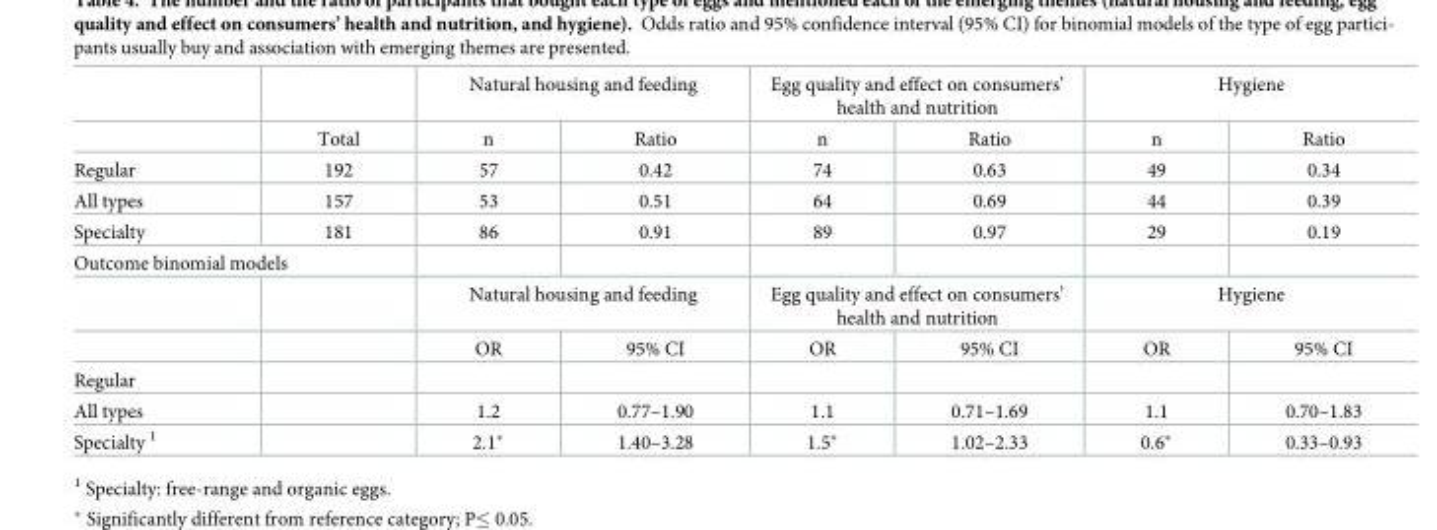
<table><thead><tr><td rowspan="2"></td><td rowspan="2">Total</td><td colspan="2">Natural housing and feeding</td><td colspan="2">Egg quality and effect on consumers’ health and nutrition</td><td colspan="2">Hygiene</td></tr><tr><td>n</td><td>Ratio</td><td>n</td><td>Ratio</td><td>n</td><td>Ratio</td></tr></thead><tbody><tr><td>Regular</td><td>192</td><td>57</td><td>0.42</td><td>74</td><td>0.63</td><td>49</td><td>0.34</td></tr><tr><td>All types</td><td>157</td><td>53</td><td>0.51</td><td>64</td><td>0.69</td><td>44</td><td>0.39</td></tr><tr><td>Specialty</td><td>181</td><td>86</td><td>0.91</td><td>89</td><td>0.97</td><td>29</td><td>0.19</td></tr><tr><td colspan="8">Outcome binomial models</td></tr><tr><td></td><td></td><td colspan="2">Natural housing and feeding</td><td colspan="2">Egg quality and effect on consumers’ health and nutrition</td><td colspan="2">Hygiene</td></tr><tr><td></td><td></td><td>OR</td><td>95% CI</td><td>OR</td><td>95% CI</td><td>OR</td><td>95% CI</td></tr><tr><td colspan="8">Regular</td></tr><tr><td>All types</td><td></td><td>1.2</td><td>0.77–1.90</td><td>1.1</td><td>0.71–1.69</td><td>1.1</td><td>0.70–1.83</td></tr><tr><td>Specialty <sup>1</sup></td><td></td><td>2.1*</td><td>1.40–3.28</td><td>1.5*</td><td>1.02–2.33</td><td>0.6*</td><td>0.33–0.93</td></tr></tbody></table>